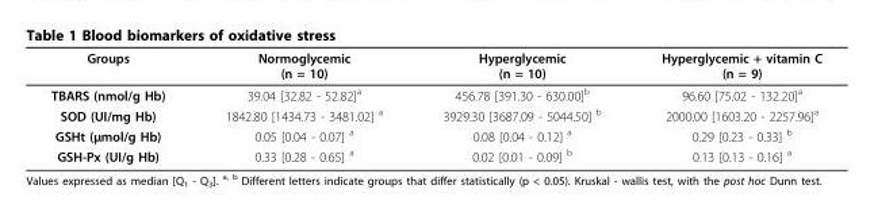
<table><thead><tr><td>Groups</td><td>Normoglycemic (n = 10)</td><td>Hyperglycemic (n = 10)</td><td>Hyperglycemic + vitamin C (n = 9)</td></tr></thead><tbody><tr><td>TBARS (nmol/g Hb)</td><td>39.04 [32.82 - 52.82]<sup>a</sup></td><td>456.78 [391.30 - 630.00]<sup>b</sup></td><td>96.60 [75.02 - 132.20]<sup>a</sup></td></tr><tr><td>SOD (UI/mg Hb)</td><td>1842.80 [1434.73 - 3481.02] <sup>a</sup></td><td>3929.30 [3687.09 - 5044.50] <sup>b</sup></td><td>2000.00 [1603.20 - 2257.96]<sup>a</sup></td></tr><tr><td>GSHt (μmol/g Hb)</td><td>0.05 [0.04 - 0.07] <sup>a</sup></td><td>0.08 [0.04 - 0.12] <sup>a</sup></td><td>0.29 [0.23 - 0.33] <sup>b</sup></td></tr><tr><td>GSH-Px (UI/g Hb)</td><td>0.33 [0.28 - 0.65] <sup>a</sup></td><td>0.02 [0.01 - 0.09] <sup>b</sup></td><td>0.13 [0.13 - 0.16] <sup>a</sup></td></tr></tbody></table>